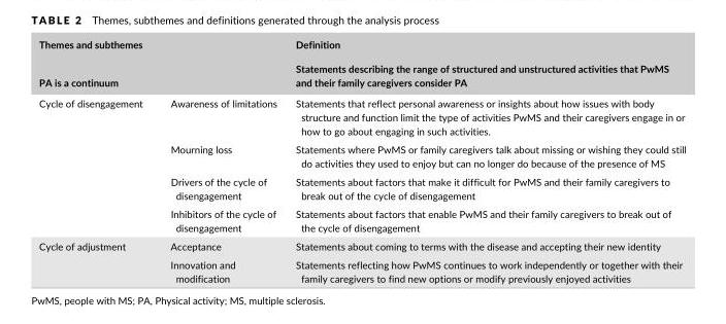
<table><thead><tr><td colspan="2">Themes and subthemes</td><td rowspan="2">Definition Statements describing the range of structured and unstructured activities that PwMS and their family caregivers consider PA</td></tr><tr><td>PA is a continuum</td><td></td></tr></thead><tbody><tr><td rowspan="4">Cycle of disengagement</td><td>Awareness of limitations</td><td>Statements that reflect personal awareness or insights about how issues with body structure and function limit the type of activities PwMS and their caregivers engage in or how to go about engaging in such activities.</td></tr><tr><td>Mourning loss</td><td>Statements where PwMS or family caregivers talk about missing or wishing they could still do activities they used to enjoy but can no longer do because of the presence of MS</td></tr><tr><td>Drivers of the cycle of disengagement</td><td>Statements about factors that make it difficult for PwMS and their family caregivers to break out of the cycle of disengagement</td></tr><tr><td>Inhibitors of the cycle of disengagement</td><td>Statements about factors that enable PwMS and their family caregivers to break out of the cycle of disengagement</td></tr><tr><td rowspan="2">Cycle of adjustment</td><td>Acceptance</td><td>Statements about coming to terms with the disease and accepting their new identity</td></tr><tr><td>Innovation and modification</td><td>Statements reflecting how PwMS continues to work independently or together with their family caregivers to find new options or modify previously enjoyed activities</td></tr></tbody></table>